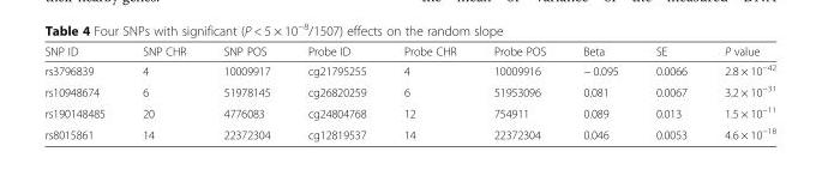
<table><thead><tr><td>SNP ID</td><td>SNP CHR</td><td>SNP POS</td><td>Probe ID</td><td>Probe CHR</td><td>Probe POS</td><td>Beta</td><td>SE</td><td>P value</td></tr></thead><tbody><tr><td>rs3796839</td><td>4</td><td>10009917</td><td>cg21795255</td><td>4</td><td>10009916</td><td>− 0.095</td><td>0.0066</td><td>2.8 × 10<sup>−42</sup></td></tr><tr><td>rs10948674</td><td>6</td><td>51978145</td><td>cg26820259</td><td>6</td><td>51953096</td><td>0.081</td><td>0.0067</td><td>3.2 × 10<sup>−31</sup></td></tr><tr><td>rs190148485</td><td>20</td><td>4776083</td><td>cg24804768</td><td>12</td><td>754911</td><td>0.089</td><td>0.013</td><td>1.5 × 10<sup>−11</sup></td></tr><tr><td>rs8015861</td><td>14</td><td>22372304</td><td>cg12819537</td><td>14</td><td>22372304</td><td>0.046</td><td>0.0053</td><td>4.6 × 10<sup>−18</sup></td></tr></tbody></table>